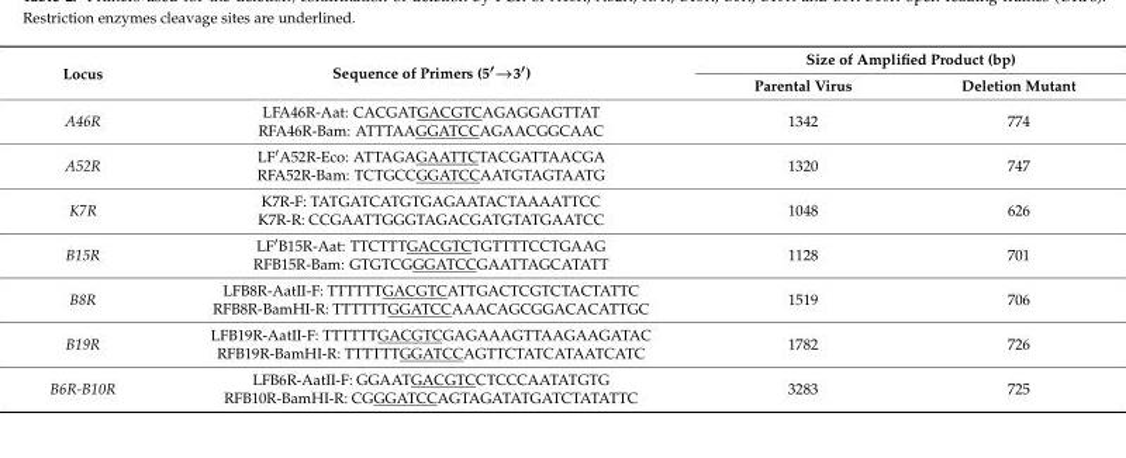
<table><thead><tr><td rowspan="2">Locus</td><td rowspan="2">Sequence of Primers (5′→3′)</td><td colspan="2">Size of Amplified Product (bp)</td></tr><tr><td>Parental Virus</td><td>Deletion Mutant</td></tr></thead><tbody><tr><td>A46R</td><td>LFA46R-Aat: CACGATGACGTCAGAGGAGTTAT RFA46R-Bam: ATTTAAGGATCCAGAACGGCAAC</td><td>1342</td><td>774</td></tr><tr><td>A52R</td><td>LF′A52R-Eco: ATTAGAGAATTCTACGATTAACGA RFA52R-Bam: TCTGCCGGATCCAATGTAGTAATG</td><td>1320</td><td>747</td></tr><tr><td>K7R</td><td>K7R-F: TATGATCATGTGAGAATACTAAAATTCC K7R-R: CCGAATTGGGTAGACGATGTATGAATCC</td><td>1048</td><td>626</td></tr><tr><td>B15R</td><td>LF′B15R-Aat: TTCTTTGACGTCTGTTTTCCTGAAG RFB15R-Bam: GTGTCGGGATCCGAATTAGCATATT</td><td>1128</td><td>701</td></tr><tr><td>B8R</td><td>LFB8R-AatII-F: TTTTTTGACGTCATTGACTCGTCTACTATTC RFB8R-BamHI-R: TTTTTTGGATCCAAACAGCGGACACATTGC</td><td>1519</td><td>706</td></tr><tr><td>B19R</td><td>LFB19R-AatII-F: TTTTTTGACGTCGAGAAAGTTAAGAAGATAC RFB19R-BamHI-R: TTTTTTGGATCCAGTTCTATCATAATCATC</td><td>1782</td><td>726</td></tr><tr><td>B6R-B10R</td><td>LFB6R-AatII-F: GGAATGACGTCCTCCCAATATGTG RFB10R-BamHI-R: CGGGATCCAGTAGATATGATCTATATTC</td><td>3283</td><td>725</td></tr></tbody></table>